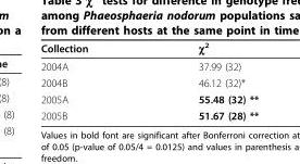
<table><thead><tr><td>Collection</td><td>χ<sup>2</sup></td></tr></thead><tbody><tr><td>2004A</td><td>37.99 (32)</td></tr><tr><td>2004B</td><td>46.12 (32)*</td></tr><tr><td>2005A</td><td>55.48 (32) **</td></tr><tr><td>2005B</td><td>51.67 (28) **</td></tr></tbody></table>